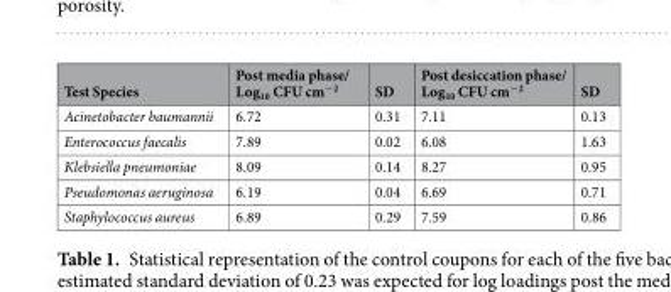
<table><thead><tr><td>Test Species</td><td>Post media phase/ Log<sub>10</sub> CFU cm<sup>−2</sup></td><td>SD</td><td>Post desiccation phase/ Log<sub>10</sub> CFU cm<sup>−2</sup></td><td>SD</td></tr></thead><tbody><tr><td>Acinetobacter baumannii</td><td>6.72</td><td>0.31</td><td>7.11</td><td>0.13</td></tr><tr><td>Enterococcus faecalis</td><td>7.89</td><td>0.02</td><td>6.08</td><td>1.63</td></tr><tr><td>Klebsiella pneumoniae</td><td>8.09</td><td>0.14</td><td>8.27</td><td>0.95</td></tr><tr><td>Pseudomonas aeruginosa</td><td>6.19</td><td>0.04</td><td>6.69</td><td>0.71</td></tr><tr><td>Staphylococcus aureus</td><td>6.89</td><td>0.29</td><td>7.59</td><td>0.86</td></tr></tbody></table>